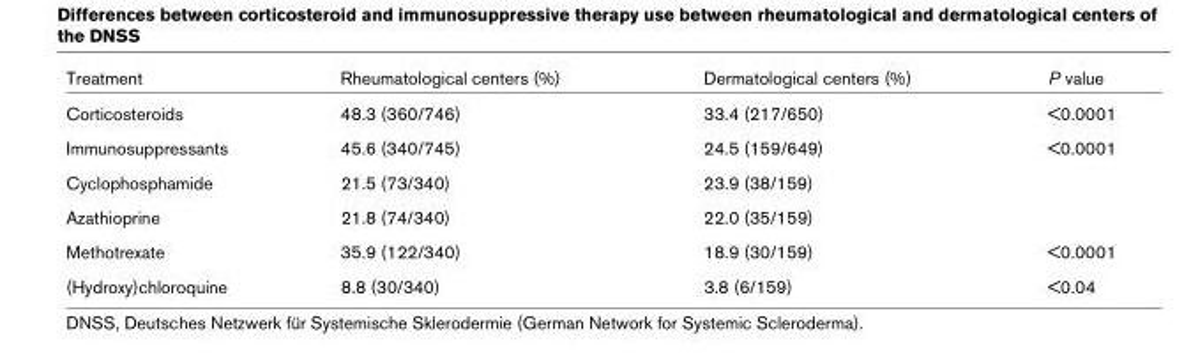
<table><thead><tr><td>Treatment</td><td>Rheumatological centers (%)</td><td>Dermatological centers (%)</td><td>P value</td></tr></thead><tbody><tr><td>Corticosteroids</td><td>48.3 (360/746)</td><td>33.4 (217/650)</td><td>&lt;0.0001</td></tr><tr><td>Immunosuppressants</td><td>45.6 (340/745)</td><td>24.5 (159/649)</td><td>&lt;0.0001</td></tr><tr><td>Cyclophosphamide</td><td>21.5 (73/340)</td><td>23.9 (38/159)</td><td></td></tr><tr><td>Azathioprine</td><td>21.8 (74/340)</td><td>22.0 (35/159)</td><td></td></tr><tr><td>Methotrexate</td><td>35.9 (122/340)</td><td>18.9 (30/159)</td><td>&lt;0.0001</td></tr><tr><td>(Hydroxy)chloroquine</td><td>8.8 (30/340)</td><td>3.8 (6/159)</td><td>&lt;0.04</td></tr></tbody></table>